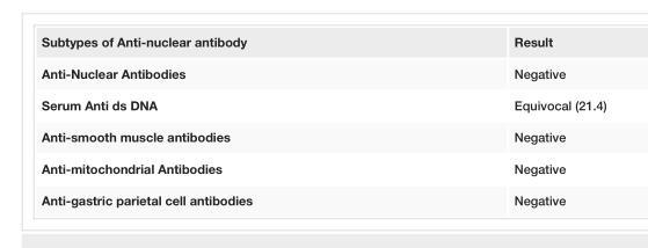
<table><tbody><tr><td>Subtypes of Anti-nuclear antibody</td><td>Result</td></tr><tr><td>Anti-Nuclear Antibodies</td><td>Negative</td></tr><tr><td>Serum Anti ds DNA</td><td>Equivocal (21.4)</td></tr><tr><td>Anti-smooth muscle antibodies</td><td>Negative</td></tr><tr><td>Anti-mitochondrial Antibodies</td><td>Negative</td></tr><tr><td>Anti-gastric parietal cell antibodies</td><td>Negative</td></tr></tbody></table>